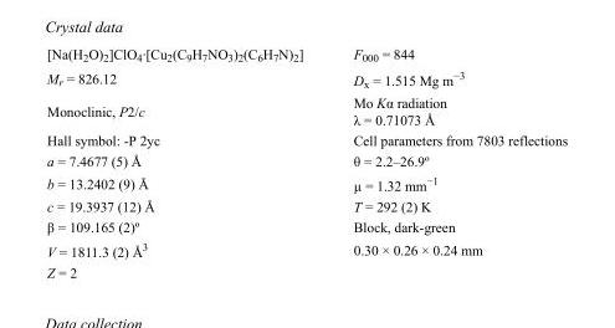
<table><tbody><tr><td>[Na(H<sub>2</sub>O)<sub>2</sub>]ClO<sub>4</sub>·[Cu<sub>2</sub>(C<sub>9</sub>H<sub>7</sub>NO<sub>3</sub>)<sub>2</sub>(C<sub>6</sub>H<sub>7</sub>N)<sub>2</sub>]</td><td>F<sub>000</sub> = 844</td></tr><tr><td>M<sub>r</sub> = 826.12</td><td>D<sub>x</sub> = 1.515 Mg m<sup>−3</sup></td></tr><tr><td>Monoclinic, P2/c</td><td>Mo Kα radiation λ = 0.71073 Å</td></tr><tr><td>Hall symbol: -P 2yc</td><td>Cell parameters from 7803 reflections</td></tr><tr><td>a = 7.4677 (5) Å</td><td>θ = 2.2–26.9º</td></tr><tr><td>b = 13.2402 (9) Å</td><td>µ = 1.32 mm<sup>−1</sup></td></tr><tr><td>c = 19.3937 (12) Å</td><td>T = 292 (2) K</td></tr><tr><td>β = 109.165 (2)º</td><td>Block, dark-green</td></tr><tr><td>V = 1811.3 (2) Å<sup>3</sup></td><td>0.30 × 0.26 × 0.24 mm</td></tr><tr><td>Z = 2</td><td></td></tr></tbody></table>